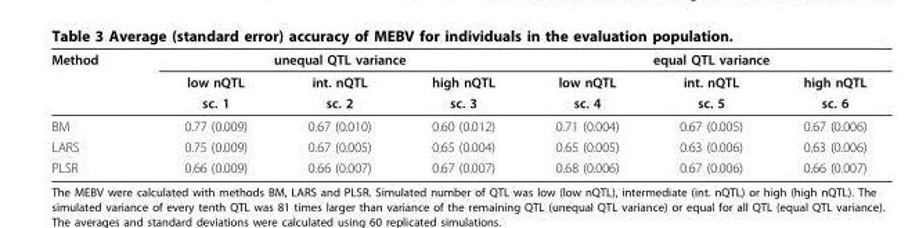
<table><thead><tr><td rowspan="3">Method</td><td colspan="3">unequal QTL variance</td><td colspan="3">equal QTL variance</td></tr><tr><td rowspan="2">low nQTL sc. 1</td><td rowspan="2">int. nQTL sc. 2</td><td rowspan="2">high nQTL sc. 3</td><td rowspan="2">low nQTL sc. 4</td><td rowspan="2">int. nQTL sc. 5</td><td rowspan="2">high nQTL sc. 6</td></tr><tr></tr></thead><tbody><tr><td>BM</td><td>0.77 (0.009)</td><td>0.67 (0.010)</td><td>0.60 (0.012)</td><td>0.71 (0.004)</td><td>0.67 (0.005)</td><td>0.67 (0.006)</td></tr><tr><td>LARS</td><td>0.75 (0.009)</td><td>0.67 (0.005)</td><td>0.65 (0.004)</td><td>0.65 (0.005)</td><td>0.63 (0.006)</td><td>0.63 (0.006)</td></tr><tr><td>PLSR</td><td>0.66 (0.009)</td><td>0.66 (0.007)</td><td>0.67 (0.007)</td><td>0.68 (0.006)</td><td>0.67 (0.006)</td><td>0.66 (0.007)</td></tr></tbody></table>